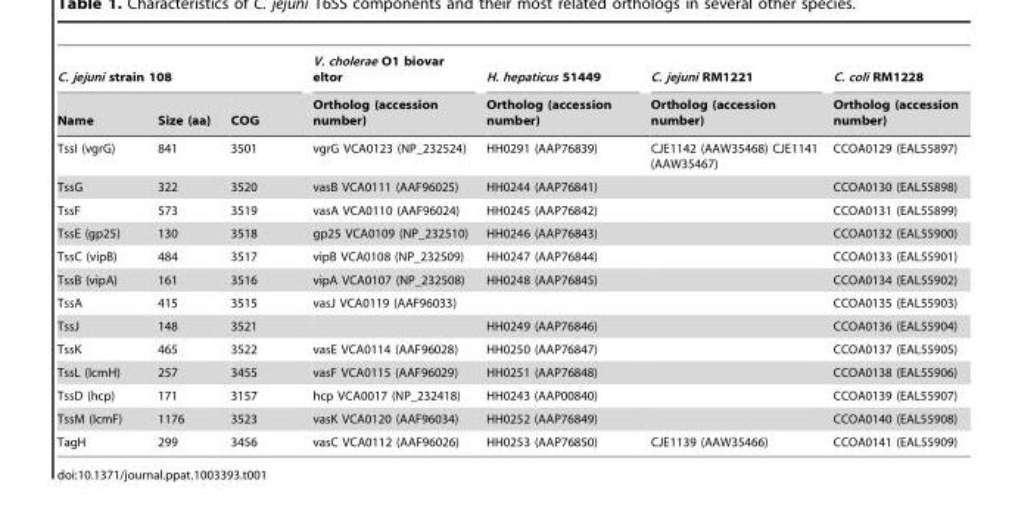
<table><thead><tr><td colspan="3">C. jejuni strain 108</td><td rowspan="2">V. cholerae O1 biovar eltor Ortholog (accession number)</td><td rowspan="2">H. hepaticus 51449 Ortholog (accession number)</td><td rowspan="2">C. jejuni RM1221 Ortholog (accession number)</td><td rowspan="2">C. coli RM1228 Ortholog (accession number)</td></tr><tr><td>Name</td><td>Size (aa)</td><td>COG</td></tr></thead><tbody><tr><td>TssI (vgrG)</td><td>841</td><td>3501</td><td>vgrG VCA0123 (NP_232524)</td><td>HH0291 (AAP76839)</td><td>CJE1142 (AAW35468) CJE1141 (AAW35467)</td><td>CCOA0129 (EAL55897)</td></tr><tr><td>TssG</td><td>322</td><td>3520</td><td>vasB VCA0111 (AAF96025)</td><td>HH0244 (AAP76841)</td><td></td><td>CCOA0130 (EAL55898)</td></tr><tr><td>TssF</td><td>573</td><td>3519</td><td>vasA VCA0110 (AAF96024)</td><td>HH0245 (AAP76842)</td><td></td><td>CCOA0131 (EAL55899)</td></tr><tr><td>TssE (gp25)</td><td>130</td><td>3518</td><td>gp25 VCA0109 (NP_232510)</td><td>HH0246 (AAP76843)</td><td></td><td>CCOA0132 (EAL55900)</td></tr><tr><td>TssC (vipB)</td><td>484</td><td>3517</td><td>vipB VCA0108 (NP_232509)</td><td>HH0247 (AAP76844)</td><td></td><td>CCOA0133 (EAL55901)</td></tr><tr><td>TssB (vipA)</td><td>161</td><td>3516</td><td>vipA VCA0107 (NP_232508)</td><td>HH0248 (AAP76845)</td><td></td><td>CCOA0134 (EAL55902)</td></tr><tr><td>TssA</td><td>415</td><td>3515</td><td>vasJ VCA0119 (AAF96033)</td><td></td><td></td><td>CCOA0135 (EAL55903)</td></tr><tr><td>TssJ</td><td>148</td><td>3521</td><td></td><td>HH0249 (AAP76846)</td><td></td><td>CCOA0136 (EAL55904)</td></tr><tr><td>TssK</td><td>465</td><td>3522</td><td>vasE VCA0114 (AAF96028)</td><td>HH0250 (AAP76847)</td><td></td><td>CCOA0137 (EAL55905)</td></tr><tr><td>TssL (IcmH)</td><td>257</td><td>3455</td><td>vasF VCA0115 (AAF96029)</td><td>HH0251 (AAP76848)</td><td></td><td>CCOA0138 (EAL55906)</td></tr><tr><td>TssD (hcp)</td><td>171</td><td>3157</td><td>hcp VCA0017 (NP_232418)</td><td>HH0243 (AAP00840)</td><td></td><td>CCOA0139 (EAL55907)</td></tr><tr><td>TssM (IcmF)</td><td>1176</td><td>3523</td><td>vasK VCA0120 (AAF96034)</td><td>HH0252 (AAP76849)</td><td></td><td>CCOA0140 (EAL55908)</td></tr><tr><td>TagH</td><td>299</td><td>3456</td><td>vasC VCA0112 (AAF96026)</td><td>HH0253 (AAP76850)</td><td>CJE1139 (AAW35466)</td><td>CCOA0141 (EAL55909)</td></tr></tbody></table>